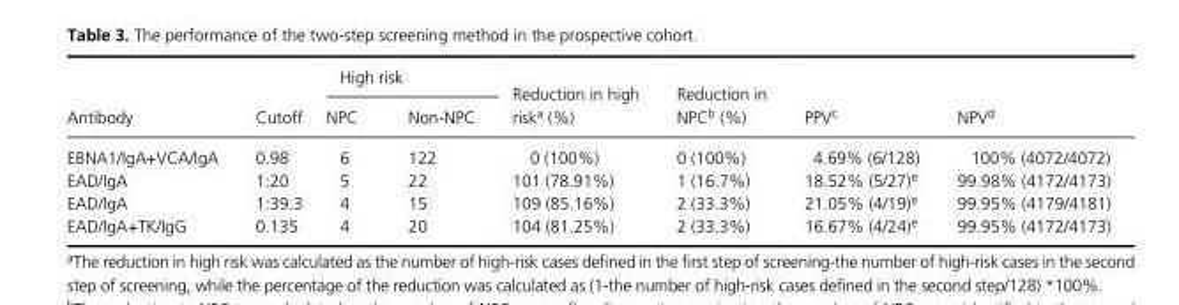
<table><thead><tr><td rowspan="2">Antibody</td><td rowspan="2">Cutoff</td><td colspan="2">High risk</td><td rowspan="2">Reduction in high risk<sup>a</sup> (%)</td><td rowspan="2">Reduction in NPC<sup>b</sup> (%)</td><td rowspan="2">PPV<sup>c</sup></td><td rowspan="2">NPV<sup>d</sup></td></tr><tr><td>NPC</td><td>Non- NPC</td></tr></thead><tbody><tr><td>EBNA1/IgA+VCA/IgA</td><td>0.98</td><td>6</td><td>122</td><td>0 (100%)</td><td>0 (100%)</td><td>4.69% (6/128)</td><td>100% (4072/4072)</td></tr><tr><td>EAD/IgA</td><td>1:20</td><td>5</td><td>22</td><td>101 (78.91%)</td><td>1 (16.7%)</td><td>18.52% (5/27)<sup>e</sup></td><td>99.98% (4172/4173)</td></tr><tr><td>EAD/IgA</td><td>1:39.3</td><td>4</td><td>15</td><td>109 (85.16%)</td><td>2 (33.3%)</td><td>21.05% (4/19)<sup>e</sup></td><td>99.95% (4179/4181)</td></tr><tr><td>EAD/IgA+TK/IgG</td><td>0.135</td><td>4</td><td>20</td><td>104 (81.25%)</td><td>2 (33.3%)</td><td>16.67% (4/24)<sup>e</sup></td><td>99.95% (4172/4173)</td></tr></tbody></table>